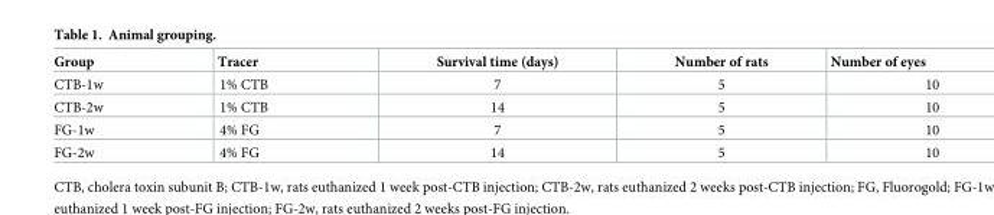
<table><thead><tr><td>Group</td><td>Tracer</td><td>Survival time (days)</td><td>Number of rats</td><td>Number of eyes</td></tr></thead><tbody><tr><td>CTB-1w</td><td>1% CTB</td><td>7</td><td>5</td><td>10</td></tr><tr><td>CTB-2w</td><td>1% CTB</td><td>14</td><td>5</td><td>10</td></tr><tr><td>FG-1w</td><td>4% FG</td><td>7</td><td>5</td><td>10</td></tr><tr><td>FG-2w</td><td>4% FG</td><td>14</td><td>5</td><td>10</td></tr></tbody></table>